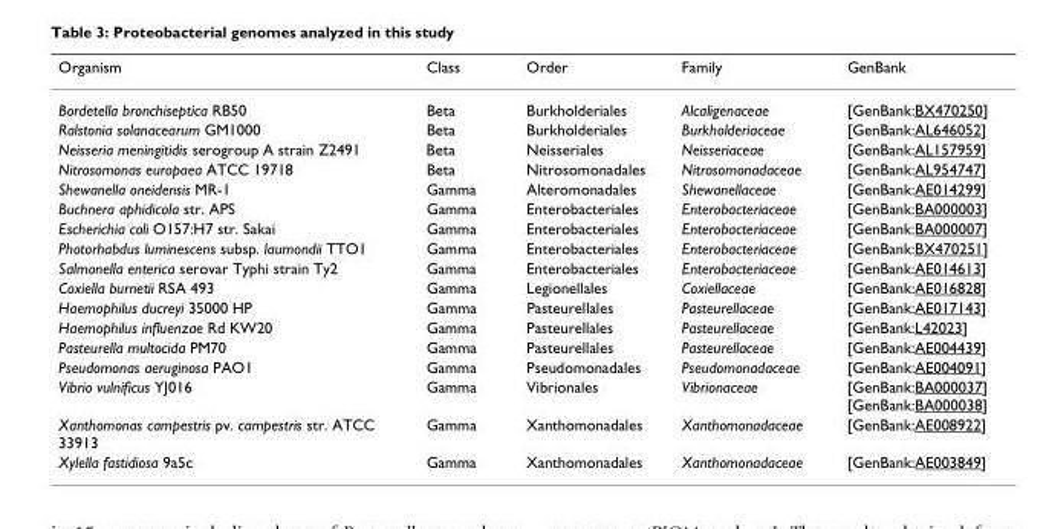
<table><thead><tr><td>Organism</td><td>Class</td><td>Order</td><td>Family</td><td>GenBank</td></tr></thead><tbody><tr><td>Bordetella bronchiseptica RB50</td><td>Beta</td><td>Burkholderiales</td><td>Alcaligenaceae</td><td>[GenBank:BX470250]</td></tr><tr><td>Ralstonia solanacearum GM1000</td><td>Beta</td><td>Burkholderiales</td><td>Burkholderiaceae</td><td>[GenBank:AL646052]</td></tr><tr><td>Neisseria meningitidis serogroup A strain Z2491</td><td>Beta</td><td>Neisseriales</td><td>Neisseriaceae</td><td>[GenBank:AL157959]</td></tr><tr><td>Nitrosomonas europaea ATCC 19718</td><td>Beta</td><td>Nitrosomonadales</td><td>Nitrosomonadaceae</td><td>[GenBank:AL954747]</td></tr><tr><td>Shewanella oneidensis MR-1</td><td>Gamma</td><td>Alteromonadales</td><td>Shewanellaceae</td><td>[GenBank:AE014299]</td></tr><tr><td>Buchnera aphidicola str. APS</td><td>Gamma</td><td>Enterobacteriales</td><td>Enterobacteriaceae</td><td>[GenBank:BA000003]</td></tr><tr><td>Escherichia coli O157:H7 str. Sakai</td><td>Gamma</td><td>Enterobacteriales</td><td>Enterobacteriaceae</td><td>[GenBank:BA000007]</td></tr><tr><td>Photorhabdus luminescens subsp. laumondii TTO1</td><td>Gamma</td><td>Enterobacteriales</td><td>Enterobacteriaceae</td><td>[GenBank:BX470251]</td></tr><tr><td>Salmonella enterica serovar Typhi strain Ty2</td><td>Gamma</td><td>Enterobacteriales</td><td>Enterobacteriaceae</td><td>[GenBank:AE014613]</td></tr><tr><td>Coxiella burnetii RSA 493</td><td>Gamma</td><td>Legionellales</td><td>Coxiellaceae</td><td>[GenBank:AE016828]</td></tr><tr><td>Haemophilus ducreyi 35000 HP</td><td>Gamma</td><td>Pasteurellales</td><td>Pasteurellaceae</td><td>[GenBank:AE017143]</td></tr><tr><td>Haemophilus influenzae Rd KW20</td><td>Gamma</td><td>Pasteurellales</td><td>Pasteurellaceae</td><td>[GenBank:L42023]</td></tr><tr><td>Pasteurella multocida PM70</td><td>Gamma</td><td>Pasteurellales</td><td>Pasteurellaceae</td><td>[GenBank:AE004439]</td></tr><tr><td>Pseudomonas aeruginosa PAO1</td><td>Gamma</td><td>Pseudomonadales</td><td>Pseudomonadaceae</td><td>[GenBank:AE004091]</td></tr><tr><td>Vibrio vulnificus YJ016</td><td>Gamma</td><td>Vibrionales</td><td>Vibrionaceae</td><td>[GenBank:BA000037] [GenBank:BA000038]</td></tr><tr><td>Xanthomonas campestris pv. campestris str. ATCC 33913</td><td>Gamma</td><td>Xanthomonadales</td><td>Xanthomonadaceae</td><td>[GenBank:AE008922]</td></tr><tr><td>Xylella fastidiosa 9a5c</td><td>Gamma</td><td>Xanthomonadales</td><td>Xanthomonadaceae</td><td>[GenBank:AE003849]</td></tr></tbody></table>